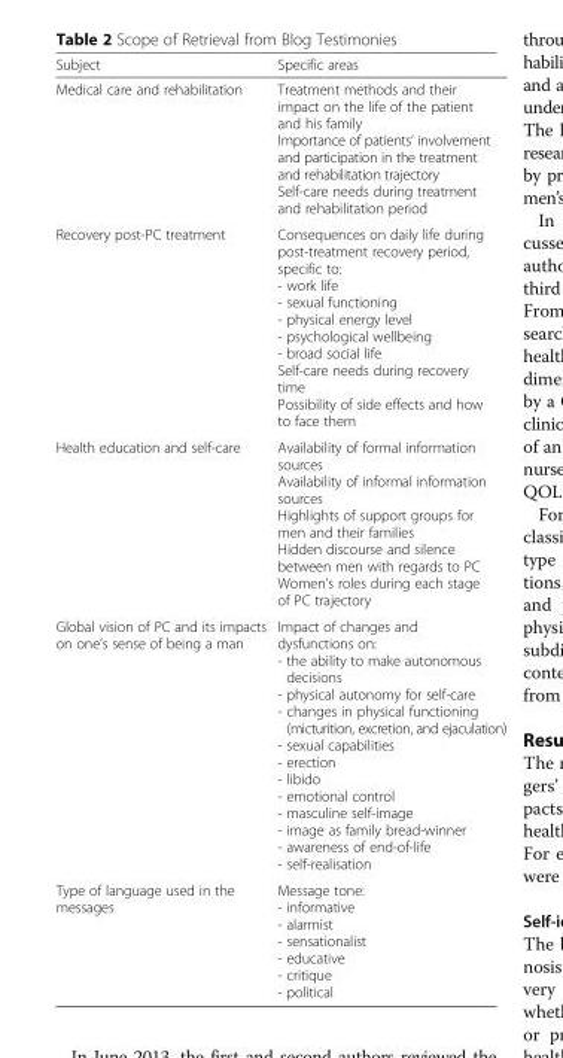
<table><thead><tr><td>Subject</td><td>Specific areas</td></tr></thead><tbody><tr><td>Medical care and rehabilitation</td><td>Treatment methods and their impact on the life of the patient and his family Importance of patients’ involvement and participation in the treatment and rehabilitation trajectory Self-care needs during treatment and rehabilitation period</td></tr><tr><td>Recovery post-PC treatment</td><td>Consequences on daily life during post-treatment recovery period, specific to: - work life - sexual functioning - physical energy level - psychological wellbeing - broad social life Self-care needs during recovery time Possibility of side effects and how to face them</td></tr><tr><td>Health education and self-care</td><td>Availability of formal information sources Availability of informal information sources Highlights of support groups for men and their families Hidden discourse and silence between men with regards to PC Women’s roles during each stage of PC trajectory</td></tr><tr><td>Global vision of PC and its impacts on one’s sense of being a man</td><td>Impact of changes and dysfunctions on: - the ability to make autonomous decisions - physical autonomy for self-care - changes in physical functioning (micturition, excretion, and ejaculation) - sexual capabilities - erection - libido - emotional control - masculine self-image - image as family bread-winner - awareness of end-of-life - self-realisation</td></tr><tr><td>Type of language used in the messages</td><td>Message tone: - informative - alarmist - sensationalist - educative - critique - political</td></tr></tbody></table>